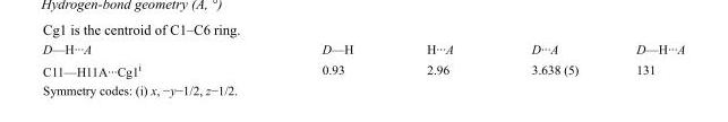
<table><tbody><tr><td>D—H···A</td><td>D—H</td><td>H···A</td><td>D···A</td><td>D—H···A</td></tr><tr><td>C11—H11A···Cg1<sup>i</sup></td><td>0.93</td><td>2.96</td><td>3.638 (5)</td><td>131</td></tr></tbody></table>